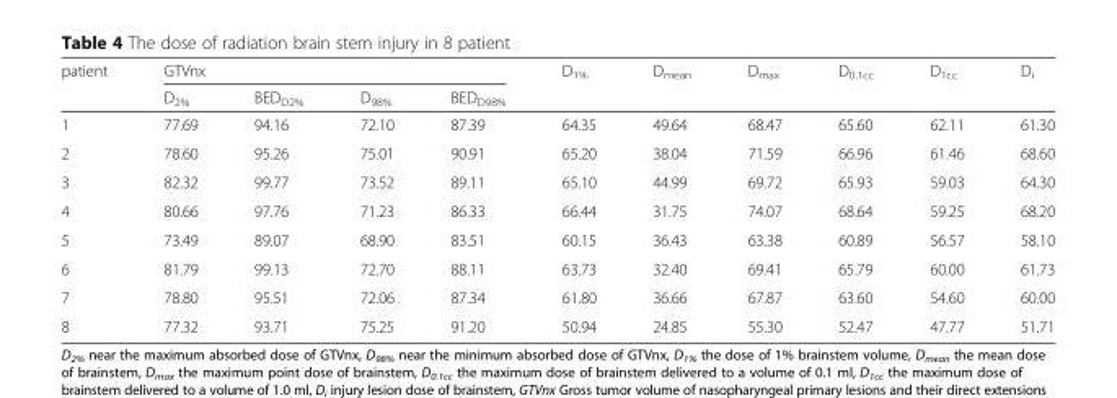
<table><thead><tr><td rowspan="2">patient</td><td colspan="4">GTVnx</td><td rowspan="2">D<sub>1%</sub></td><td rowspan="2">D<sub>mean</sub></td><td rowspan="2">D<sub>max</sub></td><td rowspan="2">D<sub>0.1cc</sub></td><td rowspan="2">D<sub>1cc</sub></td><td rowspan="2">D<sub>i</sub></td></tr><tr><td>D<sub>2%</sub></td><td>BED<sub>D2%</sub></td><td>D<sub>98%</sub></td><td>BED<sub>D98%</sub></td></tr></thead><tbody><tr><td>1</td><td>77.69</td><td>94.16</td><td>72.10</td><td>87.39</td><td>64.35</td><td>49.64</td><td>68.47</td><td>65.60</td><td>62.11</td><td>61.30</td></tr><tr><td>2</td><td>78.60</td><td>95.26</td><td>75.01</td><td>90.91</td><td>65.20</td><td>38.04</td><td>71.59</td><td>66.96</td><td>61.46</td><td>68.60</td></tr><tr><td>3</td><td>82.32</td><td>99.77</td><td>73.52</td><td>89.11</td><td>65.10</td><td>44.99</td><td>69.72</td><td>65.93</td><td>59.03</td><td>64.30</td></tr><tr><td>4</td><td>80.66</td><td>97.76</td><td>71.23</td><td>86.33</td><td>66.44</td><td>31.75</td><td>74.07</td><td>68.64</td><td>59.25</td><td>68.20</td></tr><tr><td>5</td><td>73.49</td><td>89.07</td><td>68.90</td><td>83.51</td><td>60.15</td><td>36.43</td><td>63.38</td><td>60.89</td><td>56.57</td><td>58.10</td></tr><tr><td>6</td><td>81.79</td><td>99.13</td><td>72.70</td><td>88.11</td><td>63.73</td><td>32.40</td><td>69.41</td><td>65.79</td><td>60.00</td><td>61.73</td></tr><tr><td>7</td><td>78.80</td><td>95.51</td><td>72.06</td><td>87.34</td><td>61.80</td><td>36.66</td><td>67.87</td><td>63.60</td><td>54.60</td><td>60.00</td></tr><tr><td>8</td><td>77.32</td><td>93.71</td><td>75.25</td><td>91.20</td><td>50.94</td><td>24.85</td><td>55.30</td><td>52.47</td><td>47.77</td><td>51.71</td></tr></tbody></table>